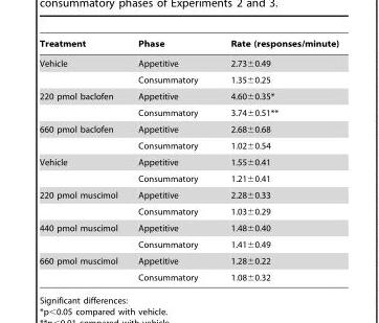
<table><thead><tr><td>Treatment</td><td>Phase</td><td>Rate (responses/minute)</td></tr></thead><tbody><tr><td rowspan="2">Vehicle</td><td>Appetitive</td><td>2.73±0.49</td></tr><tr><td>Consummatory</td><td>1.35±0.25</td></tr><tr><td rowspan="2">220 pmol baclofen</td><td>Appetitive</td><td>4.60±0.35*</td></tr><tr><td>Consummatory</td><td>3.74±0.51**</td></tr><tr><td rowspan="2">660 pmol baclofen</td><td>Appetitive</td><td>2.68±0.68</td></tr><tr><td>Consummatory</td><td>1.02±0.54</td></tr><tr><td rowspan="2">Vehicle</td><td>Appetitive</td><td>1.55±0.41</td></tr><tr><td>Consummatory</td><td>1.21±0.41</td></tr><tr><td rowspan="2">220 pmol muscimol</td><td>Appetitive</td><td>2.28±0.33</td></tr><tr><td>Consummatory</td><td>1.03±0.29</td></tr><tr><td rowspan="2">440 pmol muscimol</td><td>Appetitive</td><td>1.48±0.40</td></tr><tr><td>Consummatory</td><td>1.41±0.49</td></tr><tr><td rowspan="2">660 pmol muscimol</td><td>Appetitive</td><td>1.28±0.22</td></tr><tr><td>Consummatory</td><td>1.08±0.32</td></tr></tbody></table>